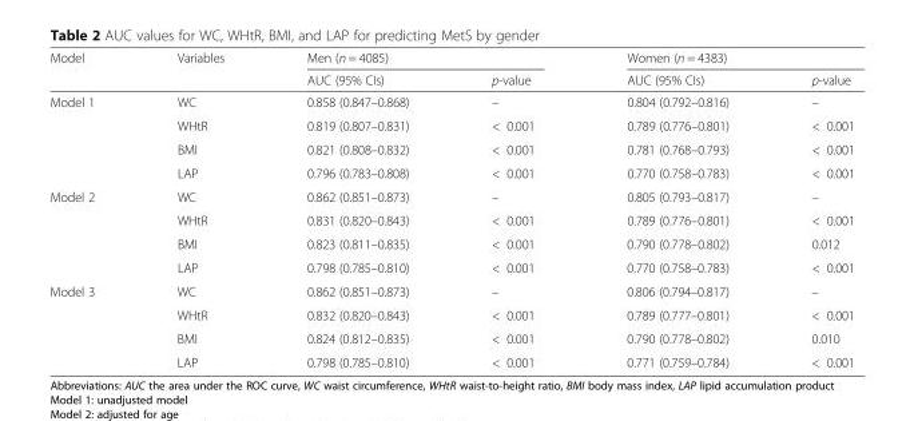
<table><thead><tr><td rowspan="2">Model</td><td rowspan="2">Variables</td><td colspan="2">Men (n = 4085)</td><td colspan="2">Women (n = 4383)</td></tr><tr><td>AUC (95% CIs)</td><td>p-value</td><td>AUC (95% CIs)</td><td>p-value</td></tr></thead><tbody><tr><td rowspan="4">Model 1</td><td>WC</td><td>0.858 (0.847–0.868)</td><td>–</td><td>0.804 (0.792–0.816)</td><td>–</td></tr><tr><td>WHtR</td><td>0.819 (0.807–0.831)</td><td>&lt; 0.001</td><td>0.789 (0.776–0.801)</td><td>&lt; 0.001</td></tr><tr><td>BMI</td><td>0.821 (0.808–0.832)</td><td>&lt; 0.001</td><td>0.781 (0.768–0.793)</td><td>&lt; 0.001</td></tr><tr><td>LAP</td><td>0.796 (0.783–0.808)</td><td>&lt; 0.001</td><td>0.770 (0.758–0.783)</td><td>&lt; 0.001</td></tr><tr><td rowspan="4">Model 2</td><td>WC</td><td>0.862 (0.851–0.873)</td><td>–</td><td>0.805 (0.793–0.817)</td><td>–</td></tr><tr><td>WHtR</td><td>0.831 (0.820–0.843)</td><td>&lt; 0.001</td><td>0.789 (0.776–0.801)</td><td>&lt; 0.001</td></tr><tr><td>BMI</td><td>0.823 (0.811–0.835)</td><td>&lt; 0.001</td><td>0.790 (0.778–0.802)</td><td>0.012</td></tr><tr><td>LAP</td><td>0.798 (0.785–0.810)</td><td>&lt; 0.001</td><td>0.770 (0.758–0.783)</td><td>&lt; 0.001</td></tr><tr><td rowspan="4">Model 3</td><td>WC</td><td>0.862 (0.851–0.873)</td><td>–</td><td>0.806 (0.794–0.817)</td><td>–</td></tr><tr><td>WHtR</td><td>0.832 (0.820–0.843)</td><td>&lt; 0.001</td><td>0.789 (0.777–0.801)</td><td>&lt; 0.001</td></tr><tr><td>BMI</td><td>0.824 (0.812–0.835)</td><td>&lt; 0.001</td><td>0.790 (0.778–0.802)</td><td>0.010</td></tr><tr><td>LAP</td><td>0.798 (0.785–0.810)</td><td>&lt; 0.001</td><td>0.771 (0.759–0.784)</td><td>&lt; 0.001</td></tr></tbody></table>